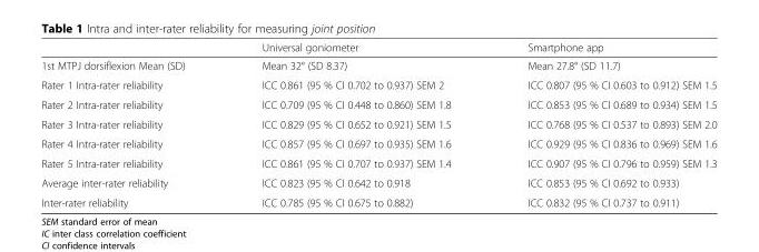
<table><thead><tr><td></td><td>Universal goniometer</td><td>Smartphone app</td></tr></thead><tbody><tr><td>1st MTPJ dorsiflexion Mean (SD)</td><td>Mean 32° (SD 8.37)</td><td>Mean 27.8° (SD 11.7)</td></tr><tr><td>Rater 1 Intra-rater reliability</td><td>ICC 0.861 (95 % CI 0.702 to 0.937) SEM 2</td><td>ICC 0.807 (95 % CI 0.603 to 0.912) SEM 1.5</td></tr><tr><td>Rater 2 Intra-rater reliability</td><td>ICC 0.709 (95 % CI 0.448 to 0.860) SEM 1.8</td><td>ICC 0.853 (95 % CI 0.689 to 0.934) SEM 1.5</td></tr><tr><td>Rater 3 Intra-rater reliability</td><td>ICC 0.829 (95 % CI 0.652 to 0.921) SEM 1.5</td><td>ICC 0.768 (95 % CI 0.537 to 0.893) SEM 2.0</td></tr><tr><td>Rater 4 Intra-rater reliability</td><td>ICC 0.857 (95 % CI 0.697 to 0.935) SEM 1.6</td><td>ICC 0.929 (95 % CI 0.836 to 0.969) SEM 1.6</td></tr><tr><td>Rater 5 Intra-rater reliability</td><td>ICC 0.861 (95 % CI 0.707 to 0.937) SEM 1.4</td><td>ICC 0.907 (95 % CI 0.796 to 0.959) SEM 1.3</td></tr><tr><td>Average inter-rater reliability</td><td>ICC 0.823 (95 % CI 0.642 to 0.918</td><td>ICC 0.853 (95 % CI 0.692 to 0.933)</td></tr><tr><td>Inter-rater reliability</td><td>ICC 0.785 (95 % CI 0.675 to 0.882)</td><td>ICC 0.832 (95 % CI 0.737 to 0.911)</td></tr></tbody></table>